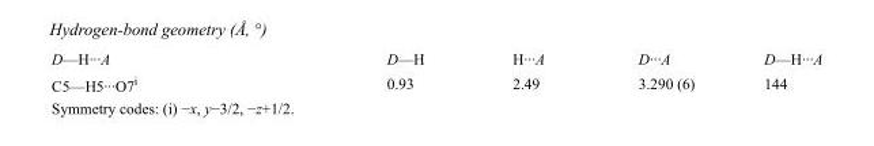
<table><tbody><tr><td>D—H···A</td><td>D—H</td><td>H···A</td><td>D···A</td><td>D—H···A</td></tr><tr><td>C5—H5···O7<sup>i</sup></td><td>0.93</td><td>2.49</td><td>3.290 (6)</td><td>144</td></tr></tbody></table>